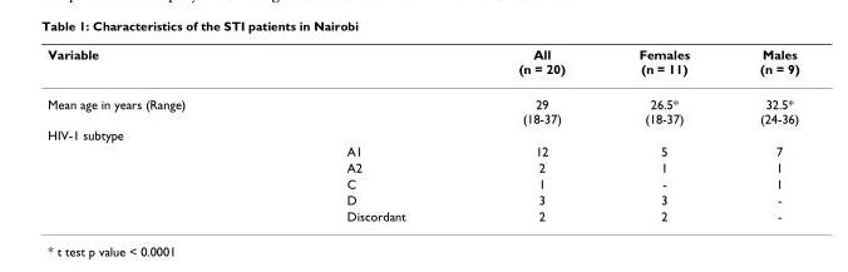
<table><thead><tr><td>Variable</td><td></td><td>All (n = 20)</td><td>Females (n = 11)</td><td>Males (n = 9)</td></tr></thead><tbody><tr><td>Mean age in years (Range)</td><td></td><td>29 (18-37)</td><td>26.5* (18-37)</td><td>32.5* (24-36)</td></tr><tr><td colspan="5">HIV-1 subtype</td></tr><tr><td></td><td>A1</td><td>12</td><td>5</td><td>7</td></tr><tr><td></td><td>A2</td><td>2</td><td>1</td><td>1</td></tr><tr><td></td><td>C</td><td>1</td><td>-</td><td>1</td></tr><tr><td></td><td>D</td><td>3</td><td>3</td><td>-</td></tr><tr><td></td><td>Discordant</td><td>2</td><td>2</td><td>-</td></tr></tbody></table>